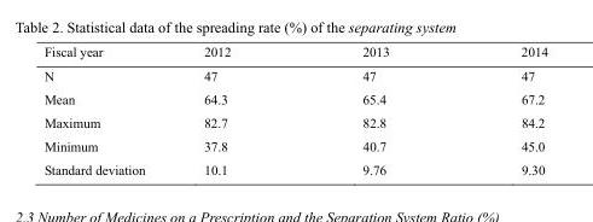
<table><thead><tr><td>Fiscal year</td><td>2012</td><td>2013</td><td>2014</td></tr></thead><tbody><tr><td>N</td><td>47</td><td>47</td><td>47</td></tr><tr><td>Mean</td><td>64.3</td><td>65.4</td><td>67.2</td></tr><tr><td>Maximum</td><td>82.7</td><td>82.8</td><td>84.2</td></tr><tr><td>Minimum</td><td>37.8</td><td>40.7</td><td>45.0</td></tr><tr><td>Standard deviation</td><td>10.1</td><td>9.76</td><td>9.30</td></tr></tbody></table>